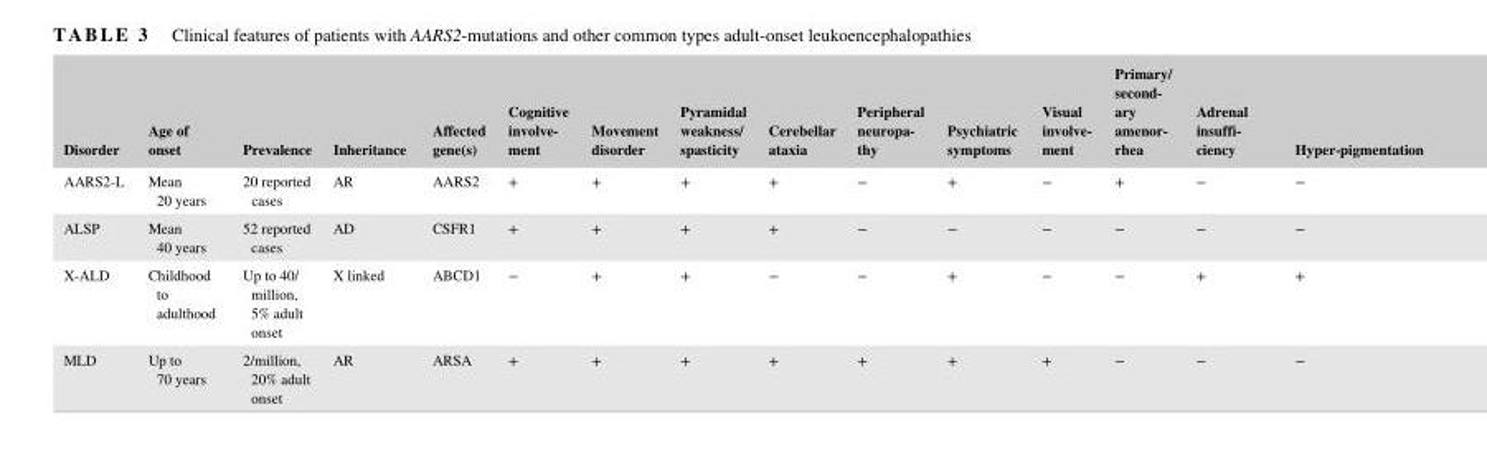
<table><thead><tr><td>Disorder</td><td>Age of onset</td><td>Prevalence</td><td>Inheritance</td><td>Affected gene(s)</td><td>Cognitive involve- ment</td><td>Movement disorder</td><td>Pyramidal weakness/ spasticity</td><td>Cerebellar ataxia</td><td>Peripheral neuropa- thy</td><td>Psychiatric symptoms</td><td>Visual involve- ment</td><td>Primary/ second- ary amenor- rhea</td><td>Adrenal insuffi- ciency</td><td>Hyper‐pigmentation</td></tr></thead><tbody><tr><td>AARS2‐L</td><td>Mean 20 years</td><td>20 reported cases</td><td>AR</td><td>AARS2</td><td>+</td><td>+</td><td>+</td><td>+</td><td>−</td><td>+</td><td>−</td><td>+</td><td>−</td><td>−</td></tr><tr><td>ALSP</td><td>Mean 40 years</td><td>52 reported cases</td><td>AD</td><td>CSFR1</td><td>+</td><td>+</td><td>+</td><td>+</td><td>−</td><td>−</td><td>−</td><td>−</td><td>−</td><td>−</td></tr><tr><td>X‐ALD</td><td>Childhood to adulthood</td><td>Up to 40/ million, 5% adult onset</td><td>X linked</td><td>ABCD1</td><td>−</td><td>+</td><td>+</td><td>−</td><td>−</td><td>+</td><td>−</td><td>−</td><td>+</td><td>+</td></tr><tr><td>MLD</td><td>Up to 70 years</td><td>2/million, 20% adult onset</td><td>AR</td><td>ARSA</td><td>+</td><td>+</td><td>+</td><td>+</td><td>+</td><td>+</td><td>+</td><td>−</td><td>−</td><td>−</td></tr></tbody></table>